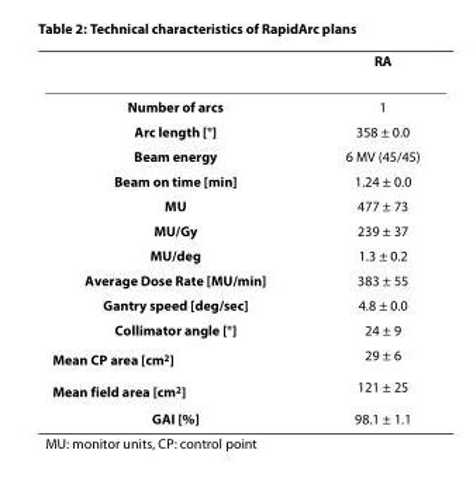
<table><thead><tr><td></td><td>RA</td></tr></thead><tbody><tr><td>Number of arcs</td><td>1</td></tr><tr><td>Arc length [°]</td><td>358 ± 0.0</td></tr><tr><td>Beam energy</td><td>6 MV (45/45)</td></tr><tr><td>Beam on time [min]</td><td>1.24 ± 0.0</td></tr><tr><td>MU</td><td>477 ± 73</td></tr><tr><td>MU/Gy</td><td>239 ± 37</td></tr><tr><td>MU/deg</td><td>1.3 ± 0.2</td></tr><tr><td>Average Dose Rate [MU/min]</td><td>383 ± 55</td></tr><tr><td>Gantry speed [deg/sec]</td><td>4.8 ± 0.0</td></tr><tr><td>Collimator angle [°]</td><td>24 ± 9</td></tr><tr><td>Mean CP area [cm<sup>2</sup>]</td><td>29 ± 6</td></tr><tr><td>Mean field area [cm<sup>2</sup>]</td><td>121 ± 25</td></tr><tr><td>GAI [%]</td><td>98.1 ± 1.1</td></tr></tbody></table>